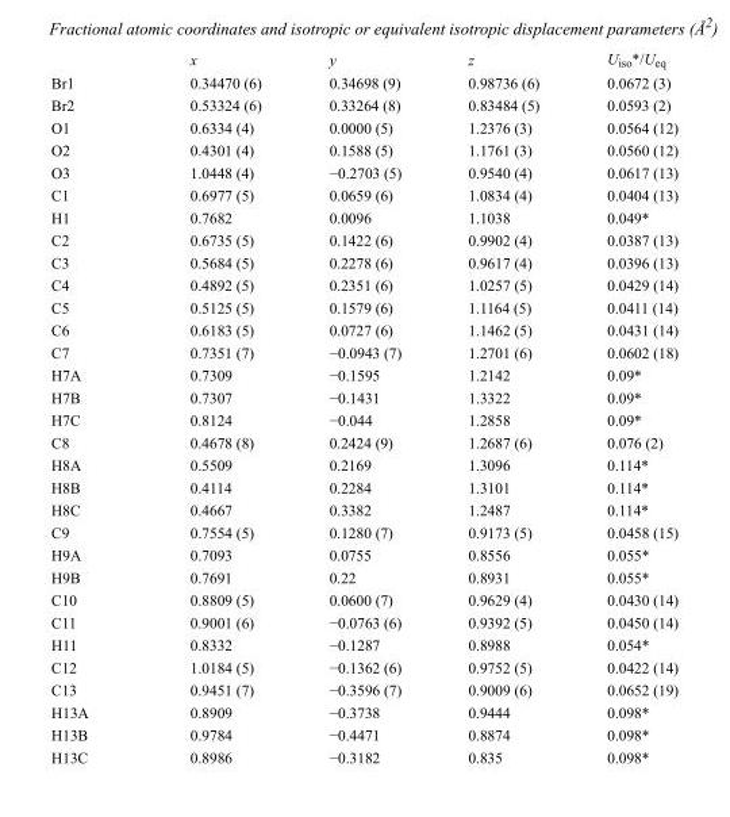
<table><thead><tr><td></td><td>x</td><td>y</td><td>z</td><td>U<sub>iso</sub>*/U<sub>eq</sub></td></tr></thead><tbody><tr><td>Br1</td><td>0.34470 (6)</td><td>0.34698 (9)</td><td>0.98736 (6)</td><td>0.0672 (3)</td></tr><tr><td>Br2</td><td>0.53324 (6)</td><td>0.33264 (8)</td><td>0.83484 (5)</td><td>0.0593 (2)</td></tr><tr><td>O1</td><td>0.6334 (4)</td><td>0.0000 (5)</td><td>1.2376 (3)</td><td>0.0564 (12)</td></tr><tr><td>O2</td><td>0.4301 (4)</td><td>0.1588 (5)</td><td>1.1761 (3)</td><td>0.0560 (12)</td></tr><tr><td>O3</td><td>1.0448 (4)</td><td>−0.2703 (5)</td><td>0.9540 (4)</td><td>0.0617 (13)</td></tr><tr><td>C1</td><td>0.6977 (5)</td><td>0.0659 (6)</td><td>1.0834 (4)</td><td>0.0404 (13)</td></tr><tr><td>H1</td><td>0.7682</td><td>0.0096</td><td>1.1038</td><td>0.049*</td></tr><tr><td>C2</td><td>0.6735 (5)</td><td>0.1422 (6)</td><td>0.9902 (4)</td><td>0.0387 (13)</td></tr><tr><td>C3</td><td>0.5684 (5)</td><td>0.2278 (6)</td><td>0.9617 (4)</td><td>0.0396 (13)</td></tr><tr><td>C4</td><td>0.4892 (5)</td><td>0.2351 (6)</td><td>1.0257 (5)</td><td>0.0429 (14)</td></tr><tr><td>C5</td><td>0.5125 (5)</td><td>0.1579 (6)</td><td>1.1164 (5)</td><td>0.0411 (14)</td></tr><tr><td>C6</td><td>0.6183 (5)</td><td>0.0727 (6)</td><td>1.1462 (5)</td><td>0.0431 (14)</td></tr><tr><td>C7</td><td>0.7351 (7)</td><td>−0.0943 (7)</td><td>1.2701 (6)</td><td>0.0602 (18)</td></tr><tr><td>H7A</td><td>0.7309</td><td>−0.1595</td><td>1.2142</td><td>0.09*</td></tr><tr><td>H7B</td><td>0.7307</td><td>−0.1431</td><td>1.3322</td><td>0.09*</td></tr><tr><td>H7C</td><td>0.8124</td><td>−0.044</td><td>1.2858</td><td>0.09*</td></tr><tr><td>C8</td><td>0.4678 (8)</td><td>0.2424 (9)</td><td>1.2687 (6)</td><td>0.076 (2)</td></tr><tr><td>H8A</td><td>0.5509</td><td>0.2169</td><td>1.3096</td><td>0.114*</td></tr><tr><td>H8B</td><td>0.4114</td><td>0.2284</td><td>1.3101</td><td>0.114*</td></tr><tr><td>H8C</td><td>0.4667</td><td>0.3382</td><td>1.2487</td><td>0.114*</td></tr><tr><td>C9</td><td>0.7554 (5)</td><td>0.1280 (7)</td><td>0.9173 (5)</td><td>0.0458 (15)</td></tr><tr><td>H9A</td><td>0.7093</td><td>0.0755</td><td>0.8556</td><td>0.055*</td></tr><tr><td>H9B</td><td>0.7691</td><td>0.22</td><td>0.8931</td><td>0.055*</td></tr><tr><td>C10</td><td>0.8809 (5)</td><td>0.0600 (7)</td><td>0.9629 (4)</td><td>0.0430 (14)</td></tr><tr><td>C11</td><td>0.9001 (6)</td><td>−0.0763 (6)</td><td>0.9392 (5)</td><td>0.0450 (14)</td></tr><tr><td>H11</td><td>0.8332</td><td>−0.1287</td><td>0.8988</td><td>0.054*</td></tr><tr><td>C12</td><td>1.0184 (5)</td><td>−0.1362 (6)</td><td>0.9752 (5)</td><td>0.0422 (14)</td></tr><tr><td>C13</td><td>0.9451 (7)</td><td>−0.3596 (7)</td><td>0.9009 (6)</td><td>0.0652 (19)</td></tr><tr><td>H13A</td><td>0.8909</td><td>−0.3738</td><td>0.9444</td><td>0.098*</td></tr><tr><td>H13B</td><td>0.9784</td><td>−0.4471</td><td>0.8874</td><td>0.098*</td></tr><tr><td>H13C</td><td>0.8986</td><td>−0.3182</td><td>0.835</td><td>0.098*</td></tr></tbody></table>